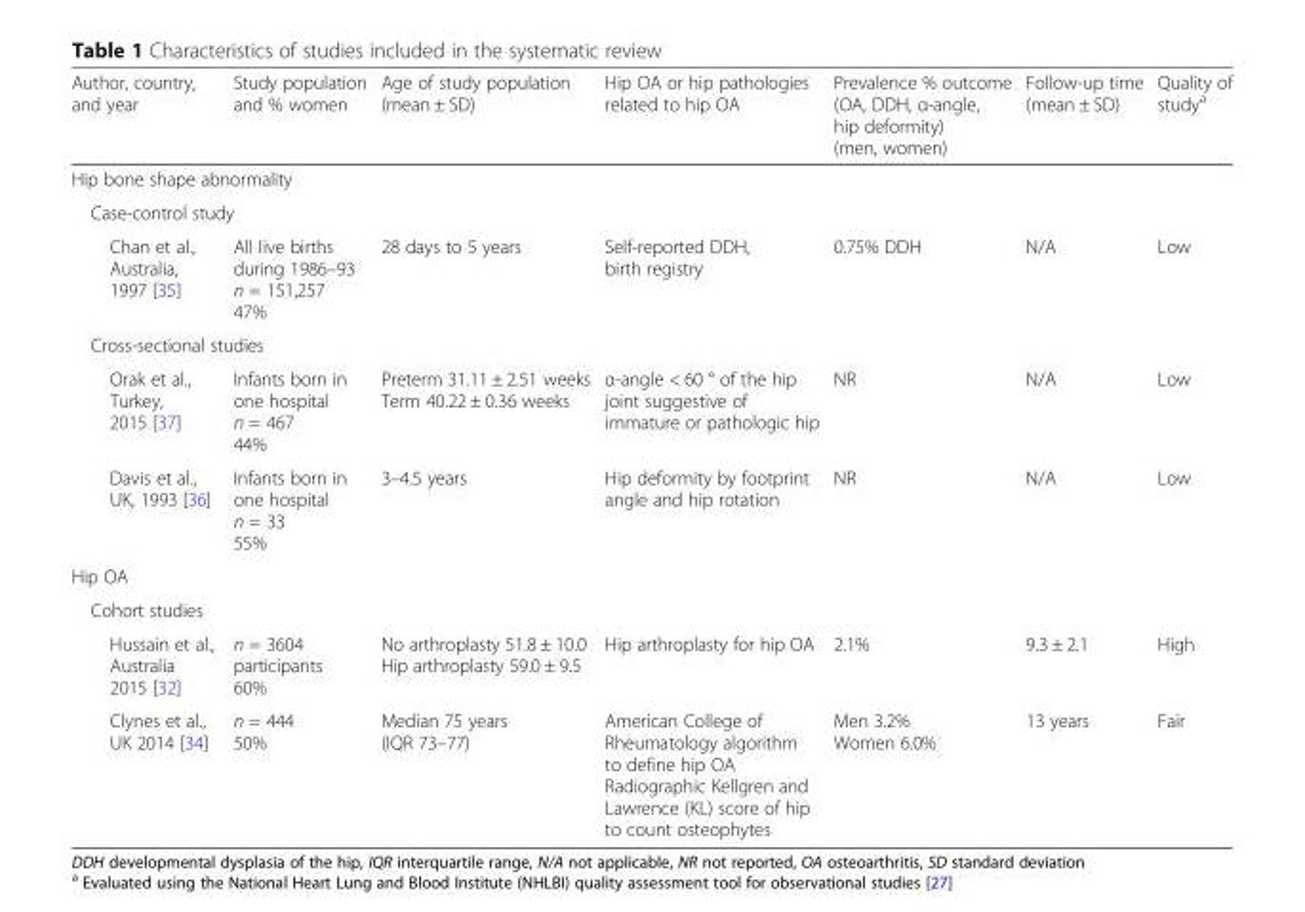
<table><thead><tr><td>Author, country, and year</td><td>Study population and % women</td><td>Age of study population (mean ± SD)</td><td>Hip OA or hip pathologies related to hip OA</td><td>Prevalence % outcome (OA, DDH, α-angle, hip deformity) (men, women)</td><td>Follow-up time (mean ± SD)</td><td>Quality of study<sup>a</sup></td></tr></thead><tbody><tr><td colspan="7">Hip bone shape abnormality</td></tr><tr><td colspan="7">Case-control study</td></tr><tr><td>Chan et al., Australia, 1997 [35]</td><td>All live births during 1986–93 n = 151,257 47%</td><td>28 days to 5 years</td><td>Self-reported DDH, birth registry</td><td>0.75% DDH</td><td>N/A</td><td>Low</td></tr><tr><td colspan="7">Cross-sectional studies</td></tr><tr><td>Orak et al., Turkey, 2015 [37]</td><td>Infants born in one hospital n = 467 44%</td><td>Preterm 31.11 ± 2.51 weeks Term 40.22 ± 0.36 weeks</td><td>α-angle &lt; 60 ° of the hip joint suggestive of immature or pathologic hip</td><td>NR</td><td>N/A</td><td>Low</td></tr><tr><td>Davis et al., UK, 1993 [36]</td><td>Infants born in one hospital n = 33 55%</td><td>3–4.5 years</td><td>Hip deformity by footprint angle and hip rotation</td><td>NR</td><td>N/A</td><td>Low</td></tr><tr><td colspan="7">Hip OA</td></tr><tr><td colspan="7">Cohort studies</td></tr><tr><td>Hussain et al., Australia 2015 [32]</td><td>n = 3604 participants 60%</td><td>No arthroplasty 51.8 ± 10.0 Hip arthroplasty 59.0 ± 9.5</td><td>Hip arthroplasty for hip OA</td><td>2.1%</td><td>9.3 ± 2.1</td><td>High</td></tr><tr><td>Clynes et al., UK 2014 [34]</td><td>n = 444 50%</td><td>Median 75 years (IQR 73–77)</td><td>American College of Rheumatology algorithm to define hip OA Radiographic Kellgren and Lawrence (KL) score of hip to count osteophytes</td><td>Men 3.2% Women 6.0%</td><td>13 years</td><td>Fair</td></tr></tbody></table>